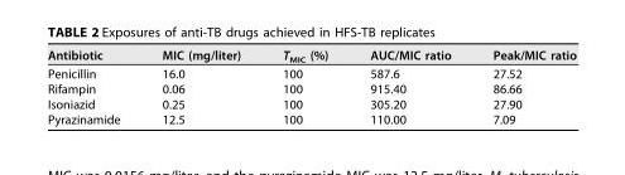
<table><thead><tr><td>Antibiotic</td><td>MIC (mg/liter)</td><td>T<sub>MIC</sub> (%)</td><td>AUC/MIC ratio</td><td>Peak/MIC ratio</td></tr></thead><tbody><tr><td>Penicillin</td><td>16.0</td><td>100</td><td>587.6</td><td>27.52</td></tr><tr><td>Rifampin</td><td>0.06</td><td>100</td><td>915.40</td><td>86.66</td></tr><tr><td>Isoniazid</td><td>0.25</td><td>100</td><td>305.20</td><td>27.90</td></tr><tr><td>Pyrazinamide</td><td>12.5</td><td>100</td><td>110.00</td><td>7.09</td></tr></tbody></table>